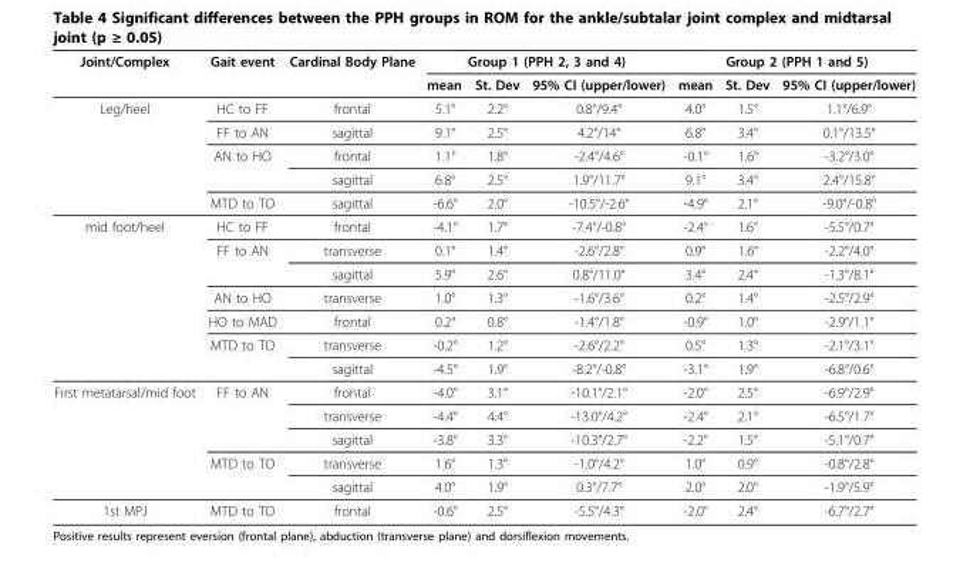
<table><thead><tr><td rowspan="2">Joint/Complex</td><td rowspan="2">Gait event</td><td rowspan="2">Cardinal Body Plane</td><td colspan="3">Group 1 (PPH 2, 3 and 4)</td><td colspan="3">Group 2 (PPH 1 and 5)</td></tr><tr><td>mean</td><td>St. Dev</td><td>95% CI (upper/lower)</td><td>mean</td><td>St. Dev</td><td>95% CI (upper/lower)</td></tr></thead><tbody><tr><td rowspan="5">Leg/heel</td><td>HC to FF</td><td>frontal</td><td>5.1°</td><td>2.2°</td><td>0.8°/9.4°</td><td>4.0°</td><td>1.5°</td><td>1.1°/6.9°</td></tr><tr><td>FF to AN</td><td>sagittal</td><td>9.1°</td><td>2.5°</td><td>4.2°/14°</td><td>6.8°</td><td>3.4°</td><td>0.1°/13.5°</td></tr><tr><td>AN to HO</td><td>frontal</td><td>1.1°</td><td>1.8°</td><td>-2.4°/4.6°</td><td>-0.1°</td><td>1.6°</td><td>-3.2°/3.0°</td></tr><tr><td></td><td>sagittal</td><td>6.8°</td><td>2.5°</td><td>1.9°/11.7°</td><td>9.1°</td><td>3.4°</td><td>2.4°/15.8°</td></tr><tr><td>MTD to TO</td><td>sagittal</td><td>-6.6°</td><td>2.0°</td><td>-10.5°/-2.6°</td><td>-4.9°</td><td>2.1°</td><td>-9.0°/-0.8°</td></tr><tr><td rowspan="7">mid foot/heel</td><td>HC to FF</td><td>frontal</td><td>-4.1°</td><td>1.7°</td><td>-7.4°/-0.8°</td><td>-2.4°</td><td>1.6°</td><td>-5.5°/0.7°</td></tr><tr><td>FF to AN</td><td>transverse</td><td>0.1°</td><td>1.4°</td><td>-2.6°/2.8°</td><td>0.9°</td><td>1.6°</td><td>-2.2°/4.0°</td></tr><tr><td></td><td>sagittal</td><td>5.9°</td><td>2.6°</td><td>0.8°/11.0°</td><td>3.4°</td><td>2.4°</td><td>-1.3°/8.1°</td></tr><tr><td>AN to HO</td><td>transverse</td><td>1.0°</td><td>1.3°</td><td>-1.6°/3.6°</td><td>0.2°</td><td>1.4°</td><td>-2.5°/2.9°</td></tr><tr><td>HO to MAD</td><td>frontal</td><td>0.2°</td><td>0.8°</td><td>-1.4°/1.8°</td><td>-0.9°</td><td>1.0°</td><td>-2.9°/1.1°</td></tr><tr><td>MTD to TO</td><td>transverse</td><td>-0.2°</td><td>1.2°</td><td>-2.6°/2.2°</td><td>0.5°</td><td>1.3°</td><td>-2.1°/3.1°</td></tr><tr><td></td><td>sagittal</td><td>-4.5°</td><td>1.9°</td><td>-8.2°/-0.8°</td><td>-3.1°</td><td>1.9°</td><td>-6.8°/0.6°</td></tr><tr><td rowspan="5">First metatarsal/mid foot</td><td>FF to AN</td><td>frontal</td><td>-4.0°</td><td>3.1°</td><td>-10.1°/2.1°</td><td>-2.0°</td><td>2.5°</td><td>-6.9°/2.9°</td></tr><tr><td></td><td>transverse</td><td>-4.4°</td><td>4.4°</td><td>-13.0°/4.2°</td><td>-2.4°</td><td>2.1°</td><td>-6.5°/1.7°</td></tr><tr><td></td><td>sagittal</td><td>-3.8°</td><td>3.3°</td><td>-10.3°/2.7°</td><td>-2.2°</td><td>1.5°</td><td>-5.1°/0.7°</td></tr><tr><td>MTD to TO</td><td>transverse</td><td>1.6°</td><td>1.3°</td><td>-1.0°/4.2°</td><td>1.0°</td><td>0.9°</td><td>-0.8°/2.8°</td></tr><tr><td></td><td>sagittal</td><td>4.0°</td><td>1.9°</td><td>0.3°/7.7°</td><td>2.0°</td><td>2.0°</td><td>-1.9°/5.9°</td></tr><tr><td>1st MPJ</td><td>MTD to TO</td><td>frontal</td><td>-0.6°</td><td>2.5°</td><td>-5.5°/4.3°</td><td>-2.0°</td><td>2.4°</td><td>-6.7°/2.7°</td></tr></tbody></table>